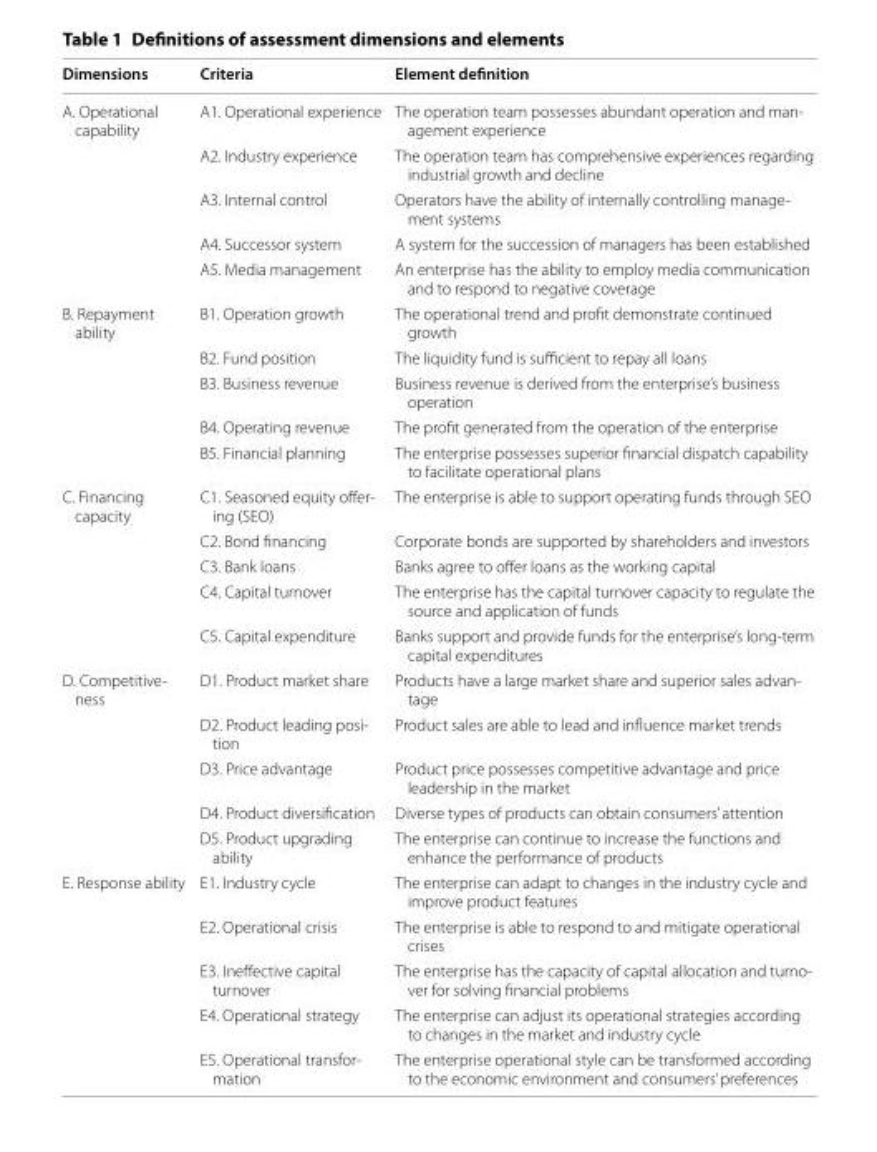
<table><thead><tr><td>Dimensions</td><td>Criteria</td><td>Element definition</td></tr></thead><tbody><tr><td rowspan="5">A. Operational capability</td><td>A1. Operational experience</td><td>The operation team possesses abundant operation and man‑ agement experience</td></tr><tr><td>A2. Industry experience</td><td>The operation team has comprehensive experiences regarding industrial growth and decline</td></tr><tr><td>A3. Internal control</td><td>Operators have the ability of internally controlling manage‑ ment systems</td></tr><tr><td>A4. Successor system</td><td>A system for the succession of managers has been established</td></tr><tr><td>A5. Media management</td><td>An enterprise has the ability to employ media communication and to respond to negative coverage</td></tr><tr><td rowspan="5">B. Repayment ability</td><td>B1. Operation growth</td><td>The operational trend and profit demonstrate continued growth</td></tr><tr><td>B2. Fund position</td><td>The liquidity fund is sufficient to repay all loans</td></tr><tr><td>B3. Business revenue</td><td>Business revenue is derived from the enterprise’s business operation</td></tr><tr><td>B4. Operating revenue</td><td>The profit generated from the operation of the enterprise</td></tr><tr><td>B5. Financial planning</td><td>The enterprise possesses superior financial dispatch capability to facilitate operational plans</td></tr><tr><td rowspan="5">C. Financing capacity</td><td>C1. Seasoned equity offer‑ ing (SEO)</td><td>The enterprise is able to support operating funds through SEO</td></tr><tr><td>C2. Bond financing</td><td>Corporate bonds are supported by shareholders and investors</td></tr><tr><td>C3. Bank loans</td><td>Banks agree to offer loans as the working capital</td></tr><tr><td>C4. Capital turnover</td><td>The enterprise has the capital turnover capacity to regulate the source and application of funds</td></tr><tr><td>C5. Capital expenditure</td><td>Banks support and provide funds for the enterprise’s long‑term capital expenditures</td></tr><tr><td rowspan="5">D. Competitive‑ ness</td><td>D1. Product market share</td><td>Products have a large market share and superior sales advan‑ tage</td></tr><tr><td>D2. Product leading posi‑ tion</td><td>Product sales are able to lead and influence market trends</td></tr><tr><td>D3. Price advantage</td><td>Product price possesses competitive advantage and price leadership in the market</td></tr><tr><td>D4. Product diversification</td><td>Diverse types of products can obtain consumers’ attention</td></tr><tr><td>D5. Product upgrading ability</td><td>The enterprise can continue to increase the functions and enhance the performance of products</td></tr><tr><td rowspan="5">E. Response ability</td><td>E1. Industry cycle</td><td>The enterprise can adapt to changes in the industry cycle and improve product features</td></tr><tr><td>E2. Operational crisis</td><td>The enterprise is able to respond to and mitigate operational crises</td></tr><tr><td>E3. Ineffective capital turnover</td><td>The enterprise has the capacity of capital allocation and turno‑ ver for solving financial problems</td></tr><tr><td>E4. Operational strategy</td><td>The enterprise can adjust its operational strategies according to changes in the market and industry cycle</td></tr><tr><td>E5. Operational transfor‑ mation</td><td>The enterprise operational style can be transformed according to the economic environment and consumers’ preferences</td></tr></tbody></table>